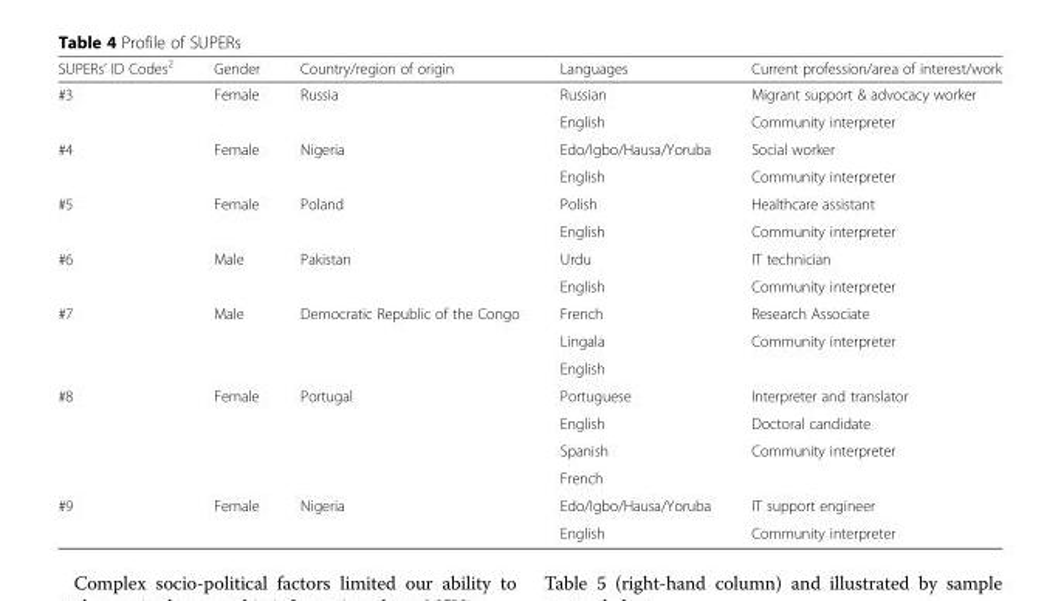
<table><thead><tr><td>SUPERs’ ID Codes<sup>2</sup></td><td>Gender</td><td>Country/region of origin</td><td>Languages</td><td>Current profession/area of interest/work</td></tr></thead><tbody><tr><td rowspan="2">#3</td><td rowspan="2">Female</td><td rowspan="2">Russia</td><td>Russian</td><td>Migrant support &amp; advocacy worker</td></tr><tr><td>English</td><td>Community interpreter</td></tr><tr><td rowspan="2">#4</td><td rowspan="2">Female</td><td rowspan="2">Nigeria</td><td>Edo/Igbo/Hausa/Yoruba</td><td>Social worker</td></tr><tr><td>English</td><td>Community interpreter</td></tr><tr><td rowspan="2">#5</td><td rowspan="2">Female</td><td rowspan="2">Poland</td><td>Polish</td><td>Healthcare assistant</td></tr><tr><td>English</td><td>Community interpreter</td></tr><tr><td rowspan="2">#6</td><td rowspan="2">Male</td><td rowspan="2">Pakistan</td><td>Urdu</td><td>IT technician</td></tr><tr><td>English</td><td>Community interpreter</td></tr><tr><td rowspan="3">#7</td><td rowspan="3">Male</td><td rowspan="3">Democratic Republic of the Congo</td><td>French</td><td>Research Associate</td></tr><tr><td>Lingala</td><td rowspan="2">Community interpreter</td></tr><tr><td>English</td></tr><tr><td rowspan="4">#8</td><td rowspan="4">Female</td><td rowspan="4">Portugal</td><td>Portuguese</td><td>Interpreter and translator</td></tr><tr><td>English</td><td>Doctoral candidate</td></tr><tr><td>Spanish</td><td rowspan="2">Community interpreter</td></tr><tr><td>French</td></tr><tr><td rowspan="2">#9</td><td rowspan="2">Female</td><td rowspan="2">Nigeria</td><td>Edo/Igbo/Hausa/Yoruba</td><td>IT support engineer</td></tr><tr><td>English</td><td>Community interpreter</td></tr></tbody></table>